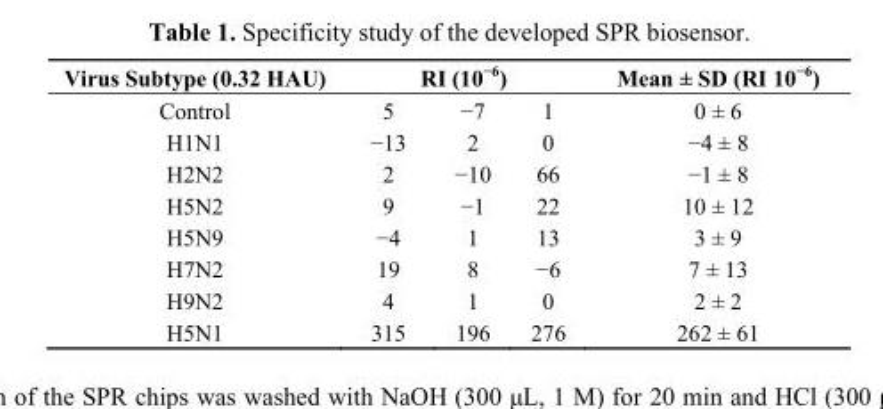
<table><thead><tr><td rowspan="2">Virus Subtype (0.32 HAU) Control</td><td colspan="3">RI (10<sup>−6</sup>)</td><td rowspan="2">Mean ± SD (RI 10<sup>−6</sup>) 0 ± 6</td></tr><tr><td>5</td><td>−7</td><td>1</td></tr></thead><tbody><tr><td>H1N1</td><td>−13</td><td>2</td><td>0</td><td>−4 ± 8</td></tr><tr><td>H2N2</td><td>2</td><td>−10</td><td>66</td><td>−1 ± 8</td></tr><tr><td>H5N2</td><td>9</td><td>−1</td><td>22</td><td>10 ± 12</td></tr><tr><td>H5N9</td><td>−4</td><td>1</td><td>13</td><td>3 ± 9</td></tr><tr><td>H7N2</td><td>19</td><td>8</td><td>−6</td><td>7 ± 13</td></tr><tr><td>H9N2</td><td>4</td><td>1</td><td>0</td><td>2 ± 2</td></tr><tr><td>H5N1</td><td>315</td><td>196</td><td>276</td><td>262 ± 61</td></tr></tbody></table>